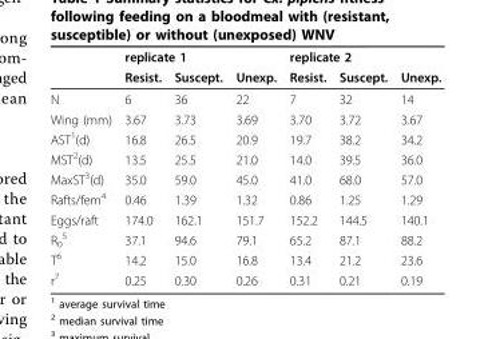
<table><thead><tr><td rowspan="2"></td><td colspan="3">replicate 1</td><td colspan="3">replicate 2</td></tr><tr><td>Resist.</td><td>Suscept.</td><td>Unexp.</td><td>Resist.</td><td>Suscept.</td><td>Unexp.</td></tr></thead><tbody><tr><td>N</td><td>6</td><td>36</td><td>22</td><td>7</td><td>32</td><td>14</td></tr><tr><td>Wing (mm)</td><td>3.67</td><td>3.73</td><td>3.69</td><td>3.70</td><td>3.72</td><td>3.67</td></tr><tr><td>AST<sup>1</sup>(d)</td><td>16.8</td><td>26.5</td><td>20.9</td><td>19.7</td><td>38.2</td><td>34.2</td></tr><tr><td>MST<sup>2</sup>(d)</td><td>13.5</td><td>25.5</td><td>21.0</td><td>14.0</td><td>39.5</td><td>36.0</td></tr><tr><td>MaxST<sup>3</sup>(d)</td><td>35.0</td><td>59.0</td><td>45.0</td><td>41.0</td><td>68.0</td><td>57.0</td></tr><tr><td>Rafts/fem<sup>4</sup></td><td>0.46</td><td>1.39</td><td>1.32</td><td>0.86</td><td>1.25</td><td>1.29</td></tr><tr><td>Eggs/raft</td><td>174.0</td><td>162.1</td><td>151.7</td><td>152.2</td><td>144.5</td><td>140.1</td></tr><tr><td>R<sub>0</sub> <sup>5</sup></td><td>37.1</td><td>94.6</td><td>79.1</td><td>65.2</td><td>87.1</td><td>88.2</td></tr><tr><td>T<sup>6</sup></td><td>14.2</td><td>15.0</td><td>16.8</td><td>13.4</td><td>21.2</td><td>23.6</td></tr><tr><td>r<sup>7</sup></td><td>0.25</td><td>0.30</td><td>0.26</td><td>0.31</td><td>0.21</td><td>0.19</td></tr></tbody></table>